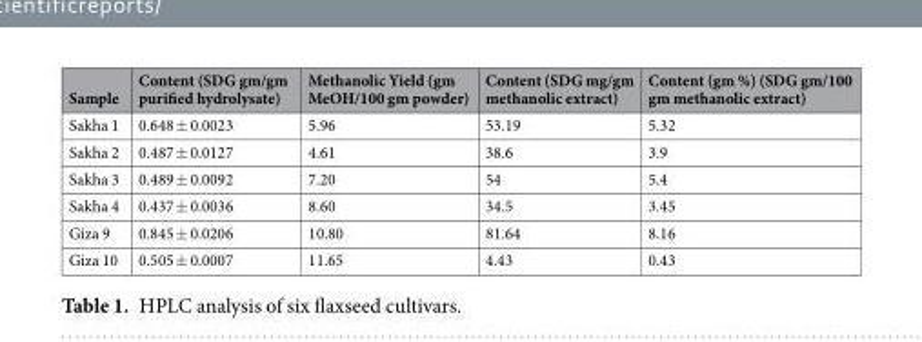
<table><thead><tr><td>Sample</td><td>Content (SDG gm/gm purified hydrolysate)</td><td>Methanolic Yield (gm MeOH/100 gm powder)</td><td>Content (SDG mg/gm methanolic extract)</td><td>Content (gm %) (SDG gm/100 gm methanolic extract)</td></tr></thead><tbody><tr><td>Sakha 1</td><td>0.648 ± 0.0023</td><td>5.96</td><td>53.19</td><td>5.32</td></tr><tr><td>Sakha 2</td><td>0.487 ± 0.0127</td><td>4.61</td><td>38.6</td><td>3.9</td></tr><tr><td>Sakha 3</td><td>0.489 ± 0.0092</td><td>7.20</td><td>54</td><td>5.4</td></tr><tr><td>Sakha 4</td><td>0.437 ± 0.0036</td><td>8.60</td><td>34.5</td><td>3.45</td></tr><tr><td>Giza 9</td><td>0.845 ± 0.0206</td><td>10.80</td><td>81.64</td><td>8.16</td></tr><tr><td>Giza 10</td><td>0.505 ± 0.0007</td><td>11.65</td><td>4.43</td><td>0.43</td></tr></tbody></table>